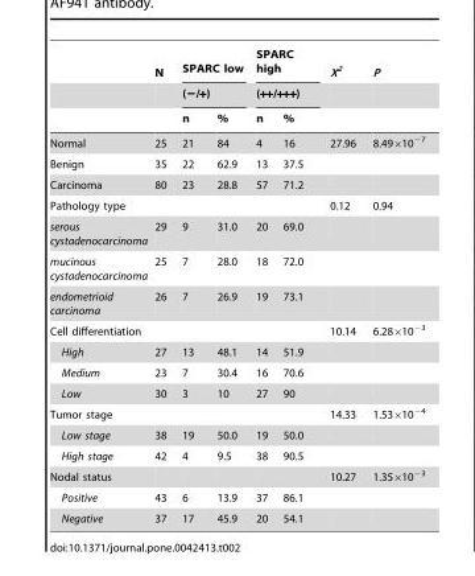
<table><thead><tr><td rowspan="3"></td><td rowspan="3">N</td><td rowspan="2" colspan="2">SPARC low (−/+)</td><td rowspan="2" colspan="2">SPARC high (++/+++)</td><td rowspan="3">X<sup>2</sup></td><td rowspan="3">P</td></tr><tr></tr><tr><td>n</td><td>%</td><td>n</td><td>%</td></tr></thead><tbody><tr><td>Normal</td><td>25</td><td>21</td><td>84</td><td>4</td><td>16</td><td>27.96</td><td>8.49×10<sup>−7</sup></td></tr><tr><td>Benign</td><td>35</td><td>22</td><td>62.9</td><td>13</td><td>37.5</td><td></td><td></td></tr><tr><td>Carcinoma</td><td>80</td><td>23</td><td>28.8</td><td>57</td><td>71.2</td><td></td><td></td></tr><tr><td>Pathology type</td><td></td><td></td><td></td><td></td><td></td><td>0.12</td><td>0.94</td></tr><tr><td>serous cystadenocarcinoma</td><td>29</td><td>9</td><td>31.0</td><td>20</td><td>69.0</td><td></td><td></td></tr><tr><td>mucinous cystadenocarcinoma</td><td>25</td><td>7</td><td>28.0</td><td>18</td><td>72.0</td><td></td><td></td></tr><tr><td>endometrioid carcinoma</td><td>26</td><td>7</td><td>26.9</td><td>19</td><td>73.1</td><td></td><td></td></tr><tr><td>Cell differentiation</td><td></td><td></td><td></td><td></td><td></td><td>10.14</td><td>6.28×10<sup>−3</sup></td></tr><tr><td>High</td><td>27</td><td>13</td><td>48.1</td><td>14</td><td>51.9</td><td></td><td></td></tr><tr><td>Medium</td><td>23</td><td>7</td><td>30.4</td><td>16</td><td>70.6</td><td></td><td></td></tr><tr><td>Low</td><td>30</td><td>3</td><td>10</td><td>27</td><td>90</td><td></td><td></td></tr><tr><td>Tumor stage</td><td></td><td></td><td></td><td></td><td></td><td>14.33</td><td>1.53×10<sup>−4</sup></td></tr><tr><td>Low stage</td><td>38</td><td>19</td><td>50.0</td><td>19</td><td>50.0</td><td></td><td></td></tr><tr><td>High stage</td><td>42</td><td>4</td><td>9.5</td><td>38</td><td>90.5</td><td></td><td></td></tr><tr><td>Nodal status</td><td></td><td></td><td></td><td></td><td></td><td>10.27</td><td>1.35×10<sup>−3</sup></td></tr><tr><td>Positive</td><td>43</td><td>6</td><td>13.9</td><td>37</td><td>86.1</td><td></td><td></td></tr><tr><td>Negative</td><td>37</td><td>17</td><td>45.9</td><td>20</td><td>54.1</td><td></td><td></td></tr></tbody></table>